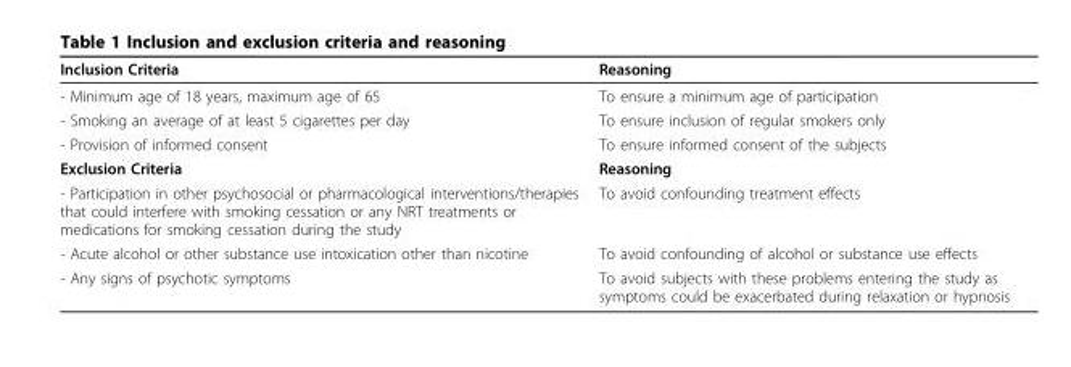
<table><thead><tr><td>Inclusion Criteria</td><td>Reasoning</td></tr></thead><tbody><tr><td>- Minimum age of 18 years, maximum age of 65</td><td>To ensure a minimum age of participation</td></tr><tr><td>- Smoking an average of at least 5 cigarettes per day</td><td>To ensure inclusion of regular smokers only</td></tr><tr><td>- Provision of informed consent</td><td>To ensure informed consent of the subjects</td></tr><tr><td>Exclusion Criteria</td><td>Reasoning</td></tr><tr><td>- Participation in other psychosocial or pharmacological interventions/therapies that could interfere with smoking cessation or any NRT treatments or medications for smoking cessation during the study</td><td>To avoid confounding treatment effects</td></tr><tr><td>- Acute alcohol or other substance use intoxication other than nicotine</td><td>To avoid confounding of alcohol or substance use effects</td></tr><tr><td>- Any signs of psychotic symptoms</td><td>To avoid subjects with these problems entering the study as symptoms could be exacerbated during relaxation or hypnosis</td></tr></tbody></table>